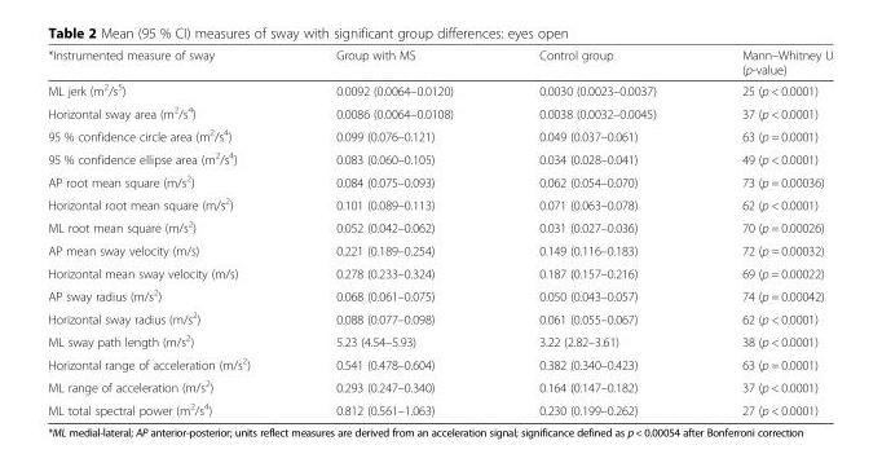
<table><thead><tr><td>*Instrumented measure of sway</td><td>Group with MS</td><td>Control group</td><td>Mann–Whitney U (p-value)</td></tr></thead><tbody><tr><td>ML jerk (m<sup>2</sup>/s<sup>5</sup>)</td><td>0.0092 (0.0064–0.0120)</td><td>0.0030 (0.0023–0.0037)</td><td>25 (p &lt; 0.0001)</td></tr><tr><td>Horizontal sway area (m<sup>2</sup>/s<sup>4</sup>)</td><td>0.0086 (0.0064–0.0108)</td><td>0.0038 (0.0032–0.0045)</td><td>37 (p &lt; 0.0001)</td></tr><tr><td>95 % confidence circle area (m<sup>2</sup>/s<sup>4</sup>)</td><td>0.099 (0.076–0.121)</td><td>0.049 (0.037–0.061)</td><td>63 (p = 0.0001)</td></tr><tr><td>95 % confidence ellipse area (m<sup>2</sup>/s<sup>4</sup>)</td><td>0.083 (0.060–0.105)</td><td>0.034 (0.028–0.041)</td><td>49 (p &lt; 0.0001)</td></tr><tr><td>AP root mean square (m/s<sup>2</sup>)</td><td>0.084 (0.075–0.093)</td><td>0.062 (0.054–0.070)</td><td>73 (p = 0.00036)</td></tr><tr><td>Horizontal root mean square (m/s<sup>2</sup>)</td><td>0.101 (0.089–0.113)</td><td>0.071 (0.063–0.078)</td><td>62 (p &lt; 0.0001)</td></tr><tr><td>ML root mean square (m/s<sup>2</sup>)</td><td>0.052 (0.042–0.062)</td><td>0.031 (0.027–0.036)</td><td>70 (p = 0.00026)</td></tr><tr><td>AP mean sway velocity (m/s)</td><td>0.221 (0.189–0.254)</td><td>0.149 (0.116–0.183)</td><td>72 (p = 0.00032)</td></tr><tr><td>Horizontal mean sway velocity (m/s)</td><td>0.278 (0.233–0.324)</td><td>0.187 (0.157–0.216)</td><td>69 (p = 0.00022)</td></tr><tr><td>AP sway radius (m/s<sup>2</sup>)</td><td>0.068 (0.061–0.075)</td><td>0.050 (0.043–0.057)</td><td>74 (p = 0.00042)</td></tr><tr><td>Horizontal sway radius (m/s<sup>2</sup>)</td><td>0.088 (0.077–0.098)</td><td>0.061 (0.055–0.067)</td><td>62 (p &lt; 0.0001)</td></tr><tr><td>ML sway path length (m/s<sup>2</sup>)</td><td>5.23 (4.54–5.93)</td><td>3.22 (2.82–3.61)</td><td>38 (p &lt; 0.0001)</td></tr><tr><td>Horizontal range of acceleration (m/s<sup>2</sup>)</td><td>0.541 (0.478–0.604)</td><td>0.382 (0.340–0.423)</td><td>63 (p = 0.0001)</td></tr><tr><td>ML range of acceleration (m/s<sup>2</sup>)</td><td>0.293 (0.247–0.340)</td><td>0.164 (0.147–0.182)</td><td>37 (p &lt; 0.0001)</td></tr><tr><td>ML total spectral power (m<sup>2</sup>/s<sup>4</sup>)</td><td>0.812 (0.561–1.063)</td><td>0.230 (0.199–0.262)</td><td>27 (p &lt; 0.0001)</td></tr></tbody></table>